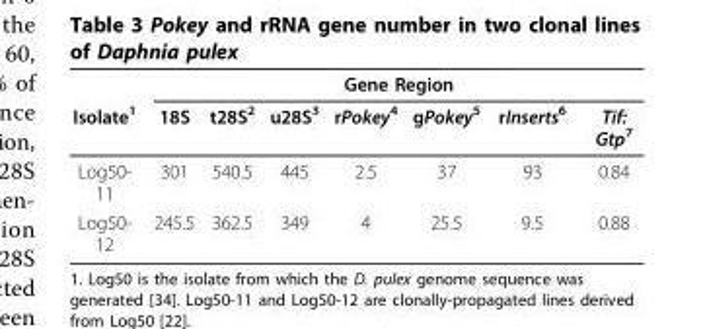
<table><thead><tr><td rowspan="2">Isolate<sup>1</sup></td><td colspan="7">Gene Region</td></tr><tr><td>18S</td><td>t28S<sup>2</sup></td><td>u28S<sup>3</sup></td><td>rPokey<sup>4</sup></td><td>gPokey<sup>5</sup></td><td>rInserts<sup>6</sup></td><td>Tif: Gtp<sup>7</sup></td></tr></thead><tbody><tr><td>Log50- 11</td><td>301</td><td>540.5</td><td>445</td><td>2.5</td><td>37</td><td>93</td><td>0.84</td></tr><tr><td>Log50- 12</td><td>245.5</td><td>362.5</td><td>349</td><td>4</td><td>25.5</td><td>9.5</td><td>0.88</td></tr></tbody></table>